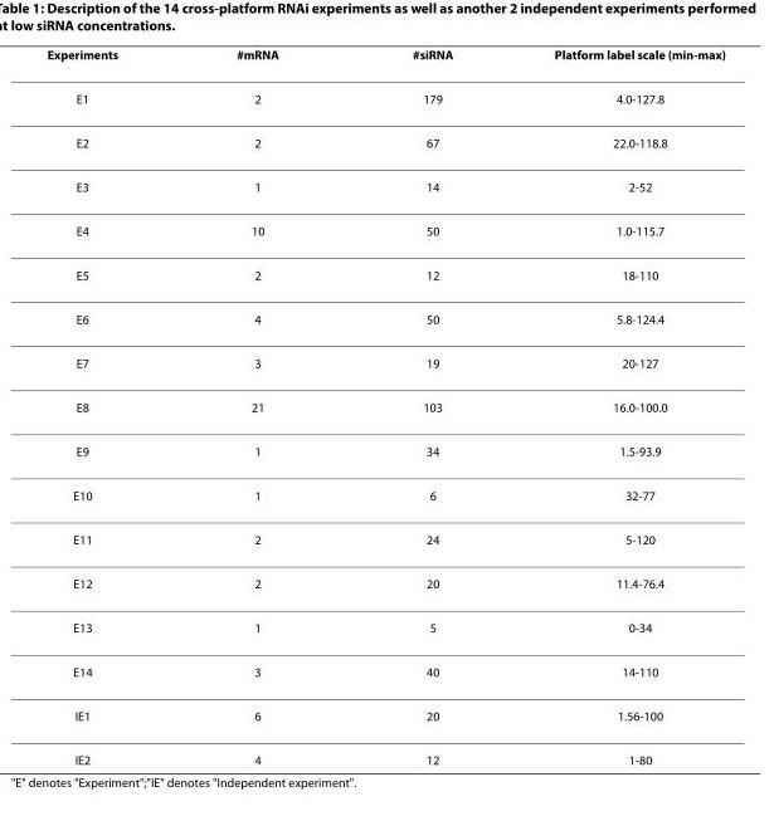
<table><thead><tr><td>Experiments</td><td>#mRNA</td><td>#siRNA</td><td>Platform label scale (min-max)</td></tr></thead><tbody><tr><td>E1</td><td>2</td><td>179</td><td>4.0-127.8</td></tr><tr><td>E2</td><td>2</td><td>67</td><td>22.0-118.8</td></tr><tr><td>E3</td><td>1</td><td>14</td><td>2-52</td></tr><tr><td>E4</td><td>10</td><td>50</td><td>1.0-115.7</td></tr><tr><td>E5</td><td>2</td><td>12</td><td>18-110</td></tr><tr><td>E6</td><td>4</td><td>50</td><td>5.8-124.4</td></tr><tr><td>E7</td><td>3</td><td>19</td><td>20-127</td></tr><tr><td>E8</td><td>21</td><td>103</td><td>16.0-100.0</td></tr><tr><td>E9</td><td>1</td><td>34</td><td>1.5-93.9</td></tr><tr><td>E10</td><td>1</td><td>6</td><td>32-77</td></tr><tr><td>E11</td><td>2</td><td>24</td><td>5-120</td></tr><tr><td>E12</td><td>2</td><td>20</td><td>11.4-76.4</td></tr><tr><td>E13</td><td>1</td><td>5</td><td>0-34</td></tr><tr><td>E14</td><td>3</td><td>40</td><td>14-110</td></tr><tr><td>IE1</td><td>6</td><td>20</td><td>1.56-100</td></tr><tr><td>IE2</td><td>4</td><td>12</td><td>1-80</td></tr></tbody></table>